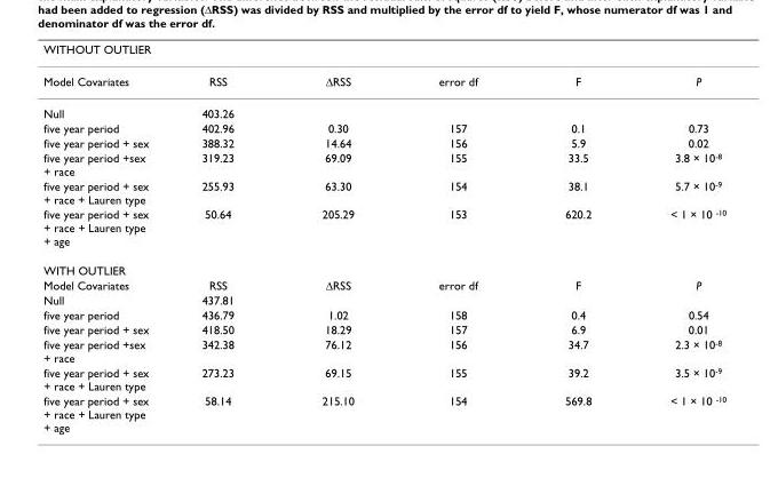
<table><thead><tr><td>WITHOUT OUTLIER</td><td></td><td></td><td></td><td></td><td></td></tr></thead><tbody><tr><td>Model Covariates</td><td>RSS</td><td>∆RSS</td><td>error df</td><td>F</td><td>P</td></tr><tr><td>Null</td><td>403.26</td><td></td><td></td><td></td><td></td></tr><tr><td>five year period</td><td>402.96</td><td>0.30</td><td>157</td><td>0.1</td><td>0.73</td></tr><tr><td>five year period + sex</td><td>388.32</td><td>14.64</td><td>156</td><td>5.9</td><td>0.02</td></tr><tr><td>five year period +sex + race</td><td>319.23</td><td>69.09</td><td>155</td><td>33.5</td><td>3.8 × 10-8</td></tr><tr><td>five year period + sex + race + Lauren type</td><td>255.93</td><td>63.30</td><td>154</td><td>38.1</td><td>5.7 × 10-9</td></tr><tr><td>five year period + sex + race + Lauren type + age</td><td>50.64</td><td>205.29</td><td>153</td><td>620.2</td><td>&lt; 1 × 10 -10</td></tr><tr><td colspan="6">WITH OUTLIER</td></tr><tr><td>Model Covariates</td><td>RSS</td><td>∆RSS</td><td>error df</td><td>F</td><td>P</td></tr><tr><td>Null</td><td>437.81</td><td></td><td></td><td></td><td></td></tr><tr><td>five year period</td><td>436.79</td><td>1.02</td><td>158</td><td>0.4</td><td>0.54</td></tr><tr><td>five year period + sex</td><td>418.50</td><td>18.29</td><td>157</td><td>6.9</td><td>0.01</td></tr><tr><td>five year period +sex + race</td><td>342.38</td><td>76.12</td><td>156</td><td>34.7</td><td>2.3 × 10-8</td></tr><tr><td>five year period + sex + race + Lauren type</td><td>273.23</td><td>69.15</td><td>155</td><td>39.2</td><td>3.5 × 10-9</td></tr><tr><td>five year period + sex + race + Lauren type + age</td><td>58.14</td><td>215.10</td><td>154</td><td>569.8</td><td>&lt; 1 × 10 -10</td></tr></tbody></table>